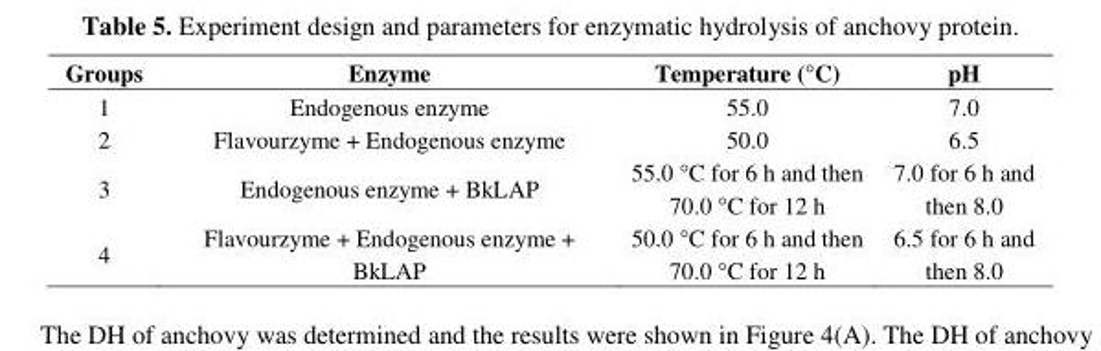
<table><thead><tr><td>Groups</td><td>Enzyme</td><td>Temperature (°C)</td><td>pH</td></tr></thead><tbody><tr><td>1</td><td>Endogenous enzyme</td><td>55.0</td><td>7.0</td></tr><tr><td>2</td><td>Flavourzyme + Endogenous enzyme</td><td>50.0</td><td>6.5</td></tr><tr><td>3</td><td>Endogenous enzyme + BkLAP</td><td>55.0 °C for 6 h and then 70.0 °C for 12 h</td><td>7.0 for 6 h and then 8.0</td></tr><tr><td>4</td><td>Flavourzyme + Endogenous enzyme + BkLAP</td><td>50.0 °C for 6 h and then 70.0 °C for 12 h</td><td>6.5 for 6 h and then 8.0</td></tr></tbody></table>